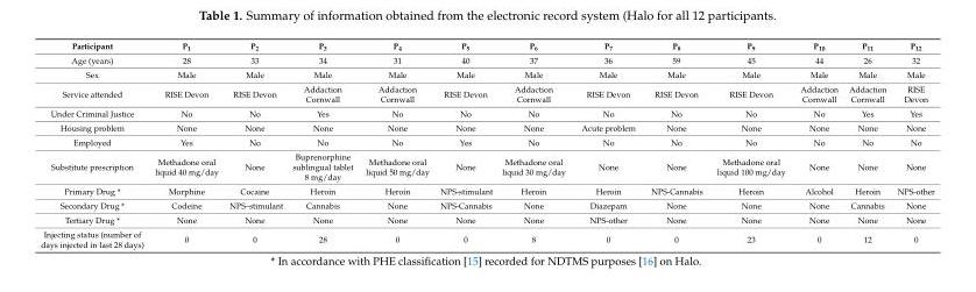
<table><thead><tr><td>Participant</td><td>P<sub>1</sub></td><td>P<sub>2</sub></td><td>P<sub>3</sub></td><td>P<sub>4</sub></td><td>P<sub>5</sub></td><td>P<sub>6</sub></td><td>P<sub>7</sub></td><td>P<sub>8</sub></td><td>P<sub>9</sub></td><td>P<sub>10</sub></td><td>P<sub>11</sub></td><td>P<sub>12</sub></td></tr></thead><tbody><tr><td>Age (years)</td><td>28</td><td>33</td><td>34</td><td>31</td><td>40</td><td>37</td><td>36</td><td>59</td><td>45</td><td>44</td><td>26</td><td>32</td></tr><tr><td>Sex</td><td>Male</td><td>Male</td><td>Male</td><td>Male</td><td>Male</td><td>Male</td><td>Male</td><td>Male</td><td>Male</td><td>Male</td><td>Male</td><td>Male</td></tr><tr><td>Service attended</td><td>RISE Devon</td><td>RISE Devon</td><td>Addaction Cornwall</td><td>Addaction Cornwall</td><td>RISE Devon</td><td>Addaction Cornwall</td><td>RISE Devon</td><td>RISE Devon</td><td>RISE Devon</td><td>Addaction Cornwall</td><td>Addaction Cornwall</td><td>RISE Devon</td></tr><tr><td>Under Criminal Justice</td><td>No</td><td>No</td><td>Yes</td><td>No</td><td>No</td><td>No</td><td>No</td><td>No</td><td>No</td><td>No</td><td>Yes</td><td>Yes</td></tr><tr><td>Housing problem</td><td>None</td><td>None</td><td>None</td><td>None</td><td>None</td><td>None</td><td>Acute problem</td><td>None</td><td>None</td><td>None</td><td>None</td><td>None</td></tr><tr><td>Employed</td><td>Yes</td><td>No</td><td>No</td><td>No</td><td>Yes</td><td>No</td><td>No</td><td>No</td><td>No</td><td>No</td><td>No</td><td>No</td></tr><tr><td>Substitute prescription</td><td>Methadone oral liquid 40 mg/day</td><td>None</td><td>Buprenorphine sublingual tablet 8 mg/day</td><td>Methadone oral liquid 50 mg/day</td><td>None</td><td>Methadone oral liquid 30 mg/day</td><td>None</td><td>None</td><td>Methadone oral liquid 100 mg/day</td><td>None</td><td>None</td><td>None</td></tr><tr><td>Primary Drug *</td><td>Morphine</td><td>Cocaine</td><td>Heroin</td><td>Heroin</td><td>NPS-stimulant</td><td>Heroin</td><td>Heroin</td><td>NPS-Cannabis</td><td>Heroin</td><td>Alcohol</td><td>Heroin</td><td>NPS-other</td></tr><tr><td>Secondary Drug *</td><td>Codeine</td><td>NPS–stimulant</td><td>Cannabis</td><td>None</td><td>NPS-Cannabis</td><td>None</td><td>Diazepam</td><td>None</td><td>None</td><td>None</td><td>Cannabis</td><td>None</td></tr><tr><td>Tertiary Drug *</td><td>None</td><td>None</td><td>None</td><td>None</td><td>None</td><td>None</td><td>NPS-other</td><td>None</td><td>None</td><td>None</td><td>None</td><td>None</td></tr><tr><td>Injecting status (number of days injected in last 28 days)</td><td>0</td><td>0</td><td>28</td><td>0</td><td>0</td><td>8</td><td>0</td><td>0</td><td>23</td><td>0</td><td>12</td><td>0</td></tr></tbody></table>